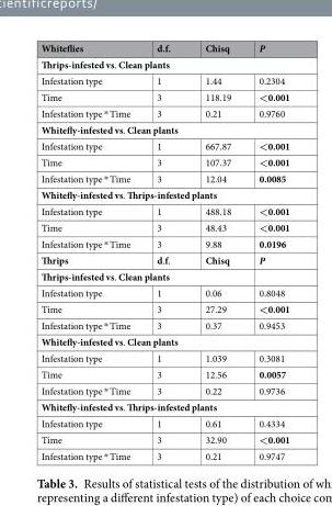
<table><thead><tr><td>Whiteflies</td><td>d.f.</td><td>Chisq</td><td>P</td></tr></thead><tbody><tr><td colspan="4">Thrips-infested vs. Clean plants</td></tr><tr><td>Infestation type</td><td>1</td><td>1.44</td><td>0.2304</td></tr><tr><td>Time</td><td>3</td><td>118.19</td><td>&lt;0.001</td></tr><tr><td>Infestation type * Time</td><td>3</td><td>0.21</td><td>0.9760</td></tr><tr><td colspan="4">Whitefly-infested vs. Clean plants</td></tr><tr><td>Infestation type</td><td>1</td><td>667.87</td><td>&lt;0.001</td></tr><tr><td>Time</td><td>3</td><td>107.37</td><td>&lt;0.001</td></tr><tr><td>Infestation type * Time</td><td>3</td><td>12.04</td><td>0.0085</td></tr><tr><td colspan="4">Whitefly-infested vs. Thrips-infested plants</td></tr><tr><td>Infestation type</td><td>1</td><td>488.18</td><td>&lt;0.001</td></tr><tr><td>Time</td><td>3</td><td>48.43</td><td>&lt;0.001</td></tr><tr><td>Infestation type * Time</td><td>3</td><td>9.88</td><td>0.0196</td></tr><tr><td>Thrips</td><td>d.f.</td><td>Chisq</td><td>P</td></tr><tr><td colspan="4">Thrips-infested vs. Clean plants</td></tr><tr><td>Infestation type</td><td>1</td><td>0.06</td><td>0.8048</td></tr><tr><td>Time</td><td>3</td><td>27.29</td><td>&lt;0.001</td></tr><tr><td>Infestation type * Time</td><td>3</td><td>0.37</td><td>0.9453</td></tr><tr><td colspan="4">Whitefly-infested vs. Clean plants</td></tr><tr><td>Infestation type</td><td>1</td><td>1.039</td><td>0.3081</td></tr><tr><td>Time</td><td>3</td><td>12.56</td><td>0.0057</td></tr><tr><td>Infestation type * Time</td><td>3</td><td>0.22</td><td>0.9736</td></tr><tr><td colspan="4">Whitefly-infested vs. Thrips-infested plants</td></tr><tr><td>Infestation type</td><td>1</td><td>0.61</td><td>0.4334</td></tr><tr><td>Time</td><td>3</td><td>32.90</td><td>&lt;0.001</td></tr><tr><td>Infestation type * Time</td><td>3</td><td>0.21</td><td>0.9747</td></tr></tbody></table>